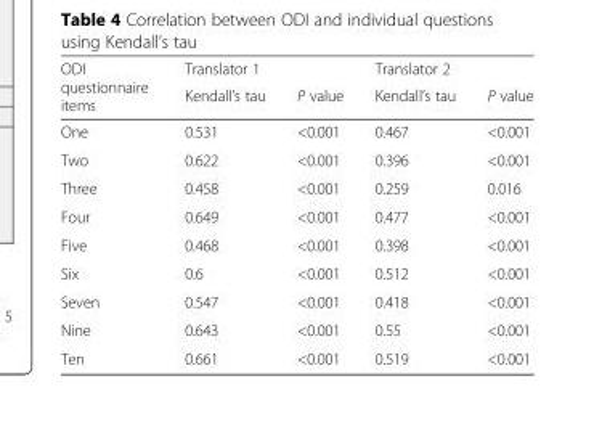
<table><thead><tr><td rowspan="2">ODI questionnaire items</td><td colspan="2">Translator 1</td><td colspan="2">Translator 2</td></tr><tr><td>Kendall’s tau</td><td>P value</td><td>Kendall’s tau</td><td>P value</td></tr></thead><tbody><tr><td>One</td><td>0.531</td><td>&lt;0.001</td><td>0.467</td><td>&lt;0.001</td></tr><tr><td>Two</td><td>0.622</td><td>&lt;0.001</td><td>0.396</td><td>&lt;0.001</td></tr><tr><td>Three</td><td>0.458</td><td>&lt;0.001</td><td>0.259</td><td>0.016</td></tr><tr><td>Four</td><td>0.649</td><td>&lt;0.001</td><td>0.477</td><td>&lt;0.001</td></tr><tr><td>Five</td><td>0.468</td><td>&lt;0.001</td><td>0.398</td><td>&lt;0.001</td></tr><tr><td>Six</td><td>0.6</td><td>&lt;0.001</td><td>0.512</td><td>&lt;0.001</td></tr><tr><td>Seven</td><td>0.547</td><td>&lt;0.001</td><td>0.418</td><td>&lt;0.001</td></tr><tr><td>Nine</td><td>0.643</td><td>&lt;0.001</td><td>0.55</td><td>&lt;0.001</td></tr><tr><td>Ten</td><td>0.661</td><td>&lt;0.001</td><td>0.519</td><td>&lt;0.001</td></tr></tbody></table>